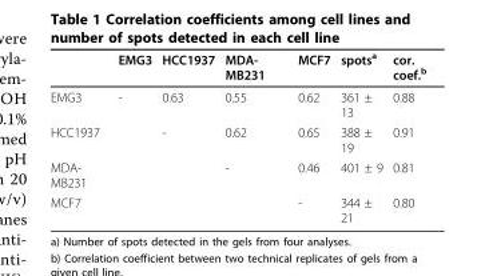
<table><thead><tr><td></td><td>EMG3</td><td>HCC1937</td><td>MDA- MB231</td><td>MCF7</td><td>spots<sup>a</sup></td><td>cor. coef.<sup>b</sup></td></tr></thead><tbody><tr><td>EMG3</td><td>-</td><td>0.63</td><td>0.55</td><td>0.62</td><td>361 ± 13</td><td>0.88</td></tr><tr><td>HCC1937</td><td></td><td>-</td><td>0.62</td><td>0.65</td><td>388 ± 19</td><td>0.91</td></tr><tr><td>MDA- MB231</td><td></td><td></td><td>-</td><td>0.46</td><td>401 ± 9</td><td>0.81</td></tr><tr><td>MCF7</td><td></td><td></td><td></td><td>-</td><td>344 ± 21</td><td>0.80</td></tr></tbody></table>